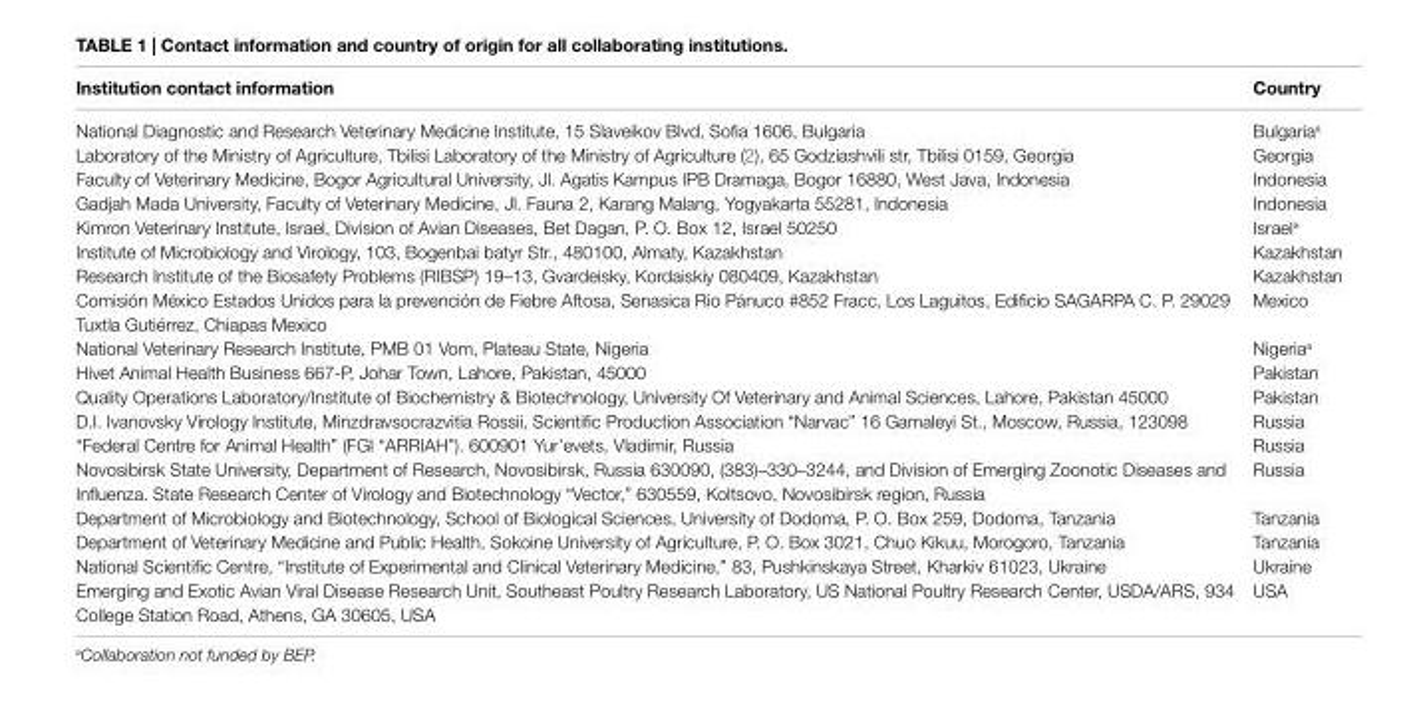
<table><thead><tr><td>institution contact information</td><td>Country</td></tr></thead><tbody><tr><td>National Diagnostic and Research Veterinary Medicine Institute, 15 Slaveikov Blvd, Sofia 1606, Bulgaria</td><td>Bulgaria<sup>a</sup></td></tr><tr><td>Laboratory of the Ministry of Agriculture, Tbilisi Laboratory of the Ministry of Agriculture (2), 65 Godziashvili str, Tbilisi 0159, Georgia</td><td>Georgia</td></tr><tr><td>Faculty of Veterinary Medicine, Bogor Agricultural University, Jl. Agatis Kampus IPB Dramaga, Bogor 16880, West Java, Indonesia</td><td>Indonesia</td></tr><tr><td>Gadjah Mada University, Faculty of Veterinary Medicine, Jl. Fauna 2, Karang Malang, Yogyakarta 55281, Indonesia</td><td>Indonesia</td></tr><tr><td>Kimron Veterinary Institute, Israel, Division of Avian Diseases, Bet Dagan, P. O. Box 12, Israel 50250</td><td>Israel<sup>a</sup></td></tr><tr><td>Institute of Microbiology and Virology, 103, Bogenbai batyr Str., 480100, Almaty, Kazakhstan</td><td>Kazakhstan</td></tr><tr><td>Research Institute of the Biosafety Problems (RIBSP) 19–13, Gvardeisky, Kordaiskiy 080409, Kazakhstan</td><td>Kazakhstan</td></tr><tr><td>Comisión México Estados Unidos para la prevención de Fiebre Aftosa, Senasica Rio Pánuco #852 Fracc, Los Laguitos, Edificio SAGARPA C. P. 29029 Tuxtla Gutiérrez, Chiapas Mexico</td><td>Mexico</td></tr><tr><td>National Veterinary Research Institute, PMB 01 Vom, Plateau State, Nigeria</td><td>Nigeria<sup>a</sup></td></tr><tr><td>Hivet Animal Health Business 667-P, Johar Town, Lahore, Pakistan, 45000</td><td>Pakistan</td></tr><tr><td>Quality Operations Laboratory/Institute of Biochemistry &amp; Biotechnology, University Of Veterinary and Animal Sciences, Lahore, Pakistan 45000</td><td>Pakistan</td></tr><tr><td>D.I. Ivanovsky Virology Institute, Minzdravsocrazvitia Rossii, Scientific Production Association “Narvac” 16 Gamaleyi St., Moscow, Russia, 123098</td><td>Russia</td></tr><tr><td>“Federal Centre for Animal Health” (FGI “ARRIAH”). 600901 Yur’evets, Vladimir, Russia</td><td>Russia</td></tr><tr><td>Novosibirsk State University, Department of Research, Novosibirsk, Russia 630090, (383)–330–3244, and Division of Emerging Zoonotic Diseases and Influenza. State Research Center of Virology and Biotechnology “Vector,” 630559, Koltsovo, Novosibirsk region, Russia</td><td>Russia</td></tr><tr><td>Department of Microbiology and Biotechnology, School of Biological Sciences, University of Dodoma, P. O. Box 259, Dodoma, Tanzania</td><td>Tanzania</td></tr><tr><td>Department of Veterinary Medicine and Public Health, Sokoine University of Agriculture, P. O. Box 3021, Chuo Kikuu, Morogoro, Tanzania</td><td>Tanzania</td></tr><tr><td>National Scientific Centre, “Institute of Experimental and Clinical Veterinary Medicine,” 83, Pushkinskaya Street, Kharkiv 61023, Ukraine</td><td>Ukraine</td></tr><tr><td>Emerging and Exotic Avian Viral Disease Research Unit, Southeast Poultry Research Laboratory, US National Poultry Research Center, USDA/ARS, 934 College Station Road, Athens, GA 30605, USA</td><td>USA</td></tr></tbody></table>